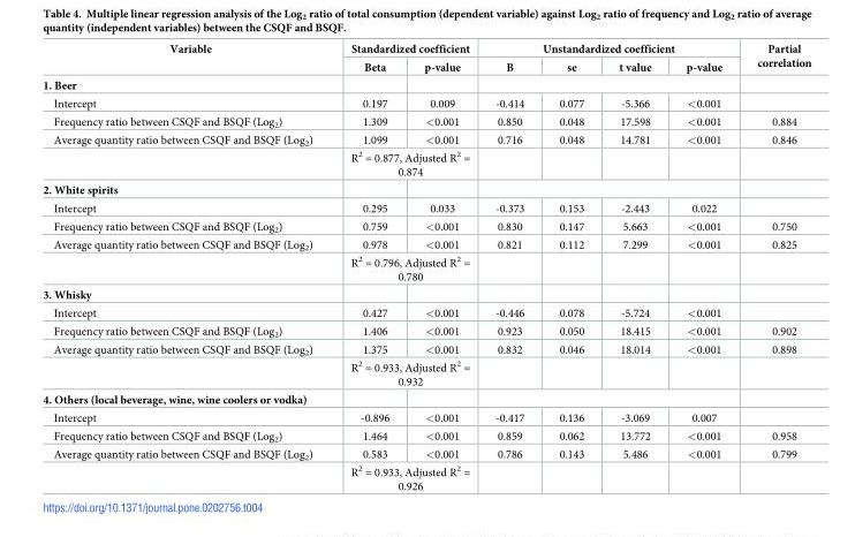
<table><thead><tr><td rowspan="2">Variable</td><td colspan="2">Standardized coefficient</td><td colspan="4">Unstandardized coefficient</td><td rowspan="2">Partial correlation</td></tr><tr><td>Beta</td><td>p-value</td><td>B</td><td>se</td><td>t value</td><td>p-value</td></tr></thead><tbody><tr><td colspan="8">1. Beer</td></tr><tr><td>Intercept</td><td>0.197</td><td>0.009</td><td>-0.414</td><td>0.077</td><td>-5.366</td><td>&lt;0.001</td><td></td></tr><tr><td>Frequency ratio between CSQF and BSQF (Log<sub>2</sub>)</td><td>1.309</td><td>&lt;0.001</td><td>0.850</td><td>0.048</td><td>17.598</td><td>&lt;0.001</td><td>0.884</td></tr><tr><td rowspan="2">Average quantity ratio between CSQF and BSQF (Log<sub>2</sub>)</td><td>1.099</td><td>&lt;0.001</td><td>0.716</td><td>0.048</td><td>14.781</td><td>&lt;0.001</td><td>0.846</td></tr><tr><td colspan="2">R<sup>2</sup> = 0.877, Adjusted R<sup>2</sup> = 0.874</td><td></td><td></td><td></td><td></td><td></td></tr><tr><td colspan="8">2. White spirits</td></tr><tr><td>Intercept</td><td>0.295</td><td>0.033</td><td>-0.373</td><td>0.153</td><td>-2.443</td><td>0.022</td><td></td></tr><tr><td>Frequency ratio between CSQF and BSQF (Log<sub>2</sub>)</td><td>0.759</td><td>&lt;0.001</td><td>0.830</td><td>0.147</td><td>5.663</td><td>&lt;0.001</td><td>0.750</td></tr><tr><td rowspan="2">Average quantity ratio between CSQF and BSQF (Log<sub>2</sub>)</td><td>0.978</td><td>&lt;0.001</td><td>0.821</td><td>0.112</td><td>7.299</td><td>&lt;0.001</td><td>0.825</td></tr><tr><td colspan="2">R<sup>2</sup> = 0.796, Adjusted R<sup>2</sup> = 0.780</td><td></td><td></td><td></td><td></td><td></td></tr><tr><td colspan="8">3. Whisky</td></tr><tr><td>Intercept</td><td>0.427</td><td>&lt;0.001</td><td>-0.446</td><td>0.078</td><td>-5.724</td><td>&lt;0.001</td><td></td></tr><tr><td>Frequency ratio between CSQF and BSQF (Log<sub>2</sub>)</td><td>1.406</td><td>&lt;0.001</td><td>0.923</td><td>0.050</td><td>18.415</td><td>&lt;0.001</td><td>0.902</td></tr><tr><td rowspan="2">Average quantity ratio between CSQF and BSQF (Log<sub>2</sub>)</td><td>1.375</td><td>&lt;0.001</td><td>0.832</td><td>0.046</td><td>18.014</td><td>&lt;0.001</td><td>0.898</td></tr><tr><td colspan="2">R<sup>2</sup> = 0.933, Adjusted R<sup>2</sup> = 0.932</td><td></td><td></td><td></td><td></td><td></td></tr><tr><td colspan="8">4. Others (local beverage, wine, wine coolers or vodka)</td></tr><tr><td>Intercept</td><td>-0.896</td><td>&lt;0.001</td><td>-0.417</td><td>0.136</td><td>-3.069</td><td>0.007</td><td></td></tr><tr><td>Frequency ratio between CSQF and BSQF (Log<sub>2</sub>)</td><td>1.464</td><td>&lt;0.001</td><td>0.859</td><td>0.062</td><td>13.772</td><td>&lt;0.001</td><td>0.958</td></tr><tr><td rowspan="2">Average quantity ratio between CSQF and BSQF (Log<sub>2</sub>)</td><td>0.583</td><td>&lt;0.001</td><td>0.786</td><td>0.143</td><td>5.486</td><td>&lt;0.001</td><td>0.799</td></tr><tr><td colspan="2">R<sup>2</sup> = 0.933, Adjusted R<sup>2</sup> = 0.926</td><td></td><td></td><td></td><td></td><td></td></tr></tbody></table>